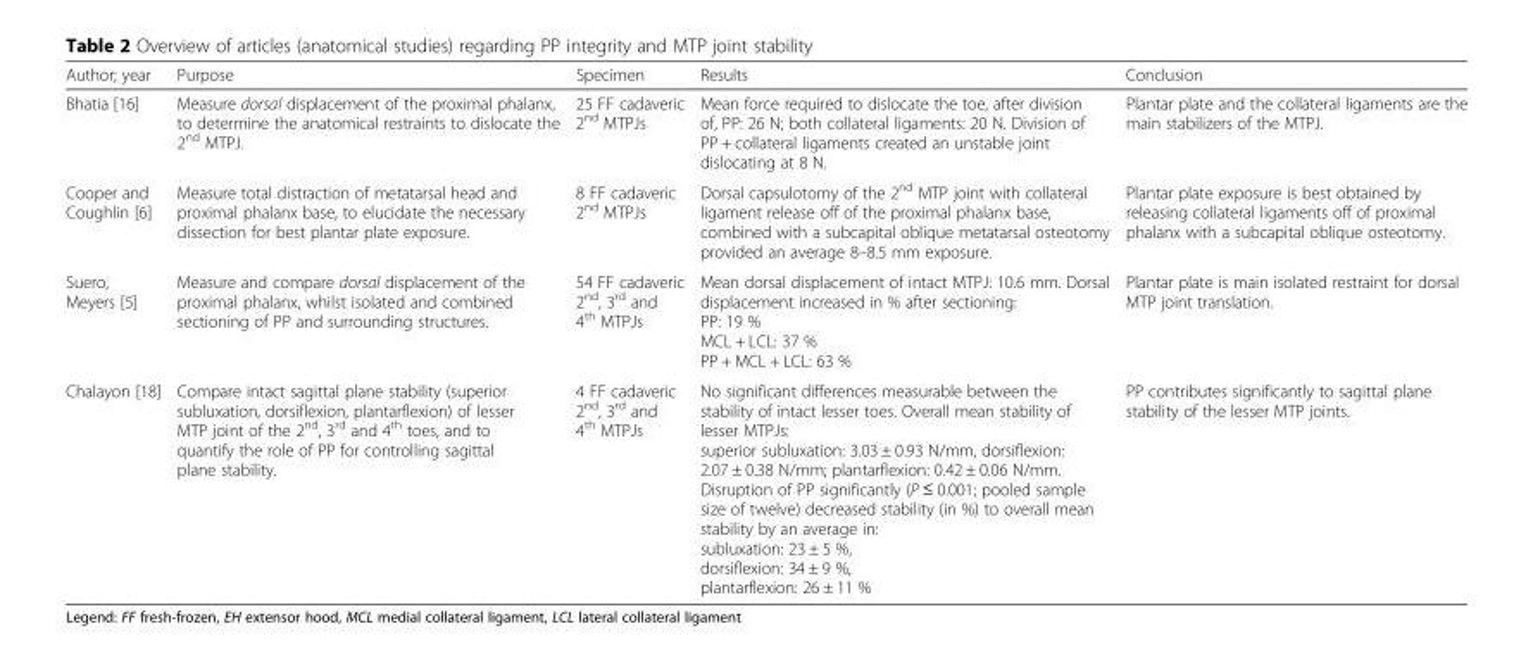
<table><thead><tr><td>Author; year</td><td>Purpose</td><td>Specimen</td><td>Results</td><td>Conclusion</td></tr></thead><tbody><tr><td>Bhatia [16]</td><td>Measure dorsal displacement of the proximal phalanx, to determine the anatomical restraints to dislocate the 2<sup>nd</sup> MTPJ.</td><td>25 FF cadaveric 2<sup>nd</sup> MTPJs</td><td>Mean force required to dislocate the toe, after division of, PP: 26 N; both collateral ligaments: 20 N. Division of PP + collateral ligaments created an unstable joint dislocating at 8 N.</td><td>Plantar plate and the collateral ligaments are the main stabilizers of the MTPJ.</td></tr><tr><td>Cooper and Coughlin [6]</td><td>Measure total distraction of metatarsal head and proximal phalanx base, to elucidate the necessary dissection for best plantar plate exposure.</td><td>8 FF cadaveric 2<sup>nd</sup> MTPJs</td><td>Dorsal capsulotomy of the 2<sup>nd</sup> MTP joint with collateral ligament release off of the proximal phalanx base, combined with a subcapital oblique metatarsal osteotomy provided an average 8–8.5 mm exposure.</td><td>Plantar plate exposure is best obtained by releasing collateral ligaments off of proximal phalanx with a subcapital oblique osteotomy.</td></tr><tr><td>Suero, Meyers [5]</td><td>Measure and compare dorsal displacement of the proximal phalanx, whilst isolated and combined sectioning of PP and surrounding structures.</td><td>54 FF cadaveric 2<sup>nd</sup>, 3<sup>rd</sup> and 4<sup>th</sup> MTPJs</td><td>Mean dorsal displacement of intact MTPJ: 10.6 mm. Dorsal displacement increased in % after sectioning: PP: 19 % MCL + LCL: 37 % PP + MCL + LCL: 63 %</td><td>Plantar plate is main isolated restraint for dorsal MTP joint translation.</td></tr><tr><td>Chalayon [18]</td><td>Compare intact sagittal plane stability (superior subluxation, dorsiflexion, plantarflexion) of lesser MTP joint of the 2<sup>nd</sup>, 3<sup>rd</sup> and 4<sup>th</sup> toes, and to quantify the role of PP for controlling sagittal plane stability.</td><td>4 FF cadaveric 2<sup>nd</sup>, 3<sup>rd</sup> and 4<sup>th</sup> MTPJs</td><td>No significant differences measurable between the stability of intact lesser toes. Overall mean stability of lesser MTPJs: superior subluxation: 3.03 ± 0.93 N/mm, dorsiflexion: 2.07 ± 0.38 N/mm; plantarflexion: 0.42 ± 0.06 N/mm. Disruption of PP significantly (P ≤ 0.001; pooled sample size of twelve) decreased stability (in %) to overall mean stability by an average in: subluxation: 23 ± 5 %, dorsiflexion: 34 ± 9 %, plantarflexion: 26 ± 11 %</td><td>PP contributes significantly to sagittal plane stability of the lesser MTP joints.</td></tr></tbody></table>